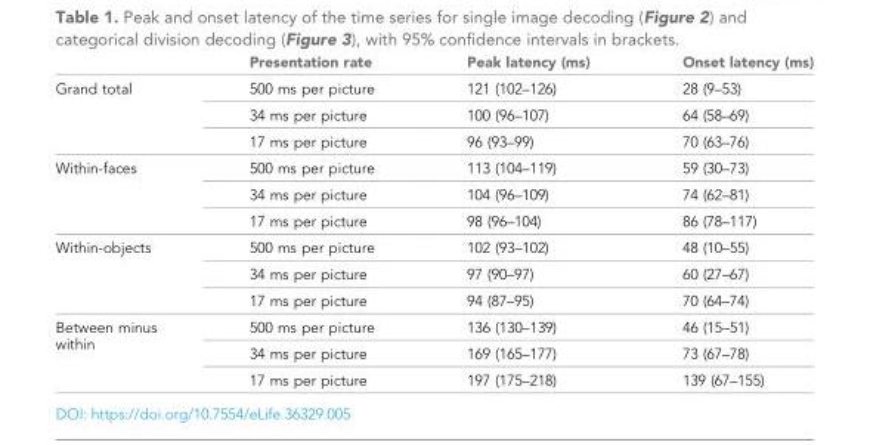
<table><thead><tr><td></td><td>Presentation rate</td><td>Peak latency (ms)</td><td>Onset latency (ms)</td></tr></thead><tbody><tr><td rowspan="3">Grand total</td><td>500 ms per picture</td><td>121 (102–126)</td><td>28 (9–53)</td></tr><tr><td>34 ms per picture</td><td>100 (96–107)</td><td>64 (58–69)</td></tr><tr><td>17 ms per picture</td><td>96 (93–99)</td><td>70 (63–76)</td></tr><tr><td rowspan="3">Within-faces</td><td>500 ms per picture</td><td>113 (104–119)</td><td>59 (30–73)</td></tr><tr><td>34 ms per picture</td><td>104 (96–109)</td><td>74 (62–81)</td></tr><tr><td>17 ms per picture</td><td>98 (96–104)</td><td>86 (78–117)</td></tr><tr><td rowspan="3">Within-objects</td><td>500 ms per picture</td><td>102 (93–102)</td><td>48 (10–55)</td></tr><tr><td>34 ms per picture</td><td>97 (90–97)</td><td>60 (27–67)</td></tr><tr><td>17 ms per picture</td><td>94 (87–95)</td><td>70 (64–74)</td></tr><tr><td rowspan="3">Between minus within</td><td>500 ms per picture</td><td>136 (130–139)</td><td>46 (15–51)</td></tr><tr><td>34 ms per picture</td><td>169 (165–177)</td><td>73 (67–78)</td></tr><tr><td>17 ms per picture</td><td>197 (175–218)</td><td>139 (67–155)</td></tr></tbody></table>